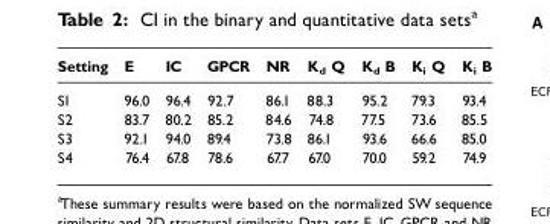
<table><thead><tr><td>Setting</td><td>E</td><td>IC</td><td>GPCR</td><td>NR</td><td>K<sub>d</sub> Q</td><td>K<sub>d</sub> B</td><td>K<sub>i</sub> Q</td><td>K<sub>i</sub> B</td></tr></thead><tbody><tr><td>S1</td><td>96.0</td><td>96.4</td><td>92.7</td><td>86.1</td><td>88.3</td><td>95.2</td><td>79.3</td><td>93.4</td></tr><tr><td>S2</td><td>83.7</td><td>80.2</td><td>85.2</td><td>84.6</td><td>74.8</td><td>77.5</td><td>73.6</td><td>85.5</td></tr><tr><td>S3</td><td>92.1</td><td>94.0</td><td>89.4</td><td>73.8</td><td>86.1</td><td>93.6</td><td>66.6</td><td>85.0</td></tr><tr><td>S4</td><td>76.4</td><td>67.8</td><td>78.6</td><td>67.7</td><td>67.0</td><td>70.0</td><td>59.2</td><td>74.9</td></tr></tbody></table>